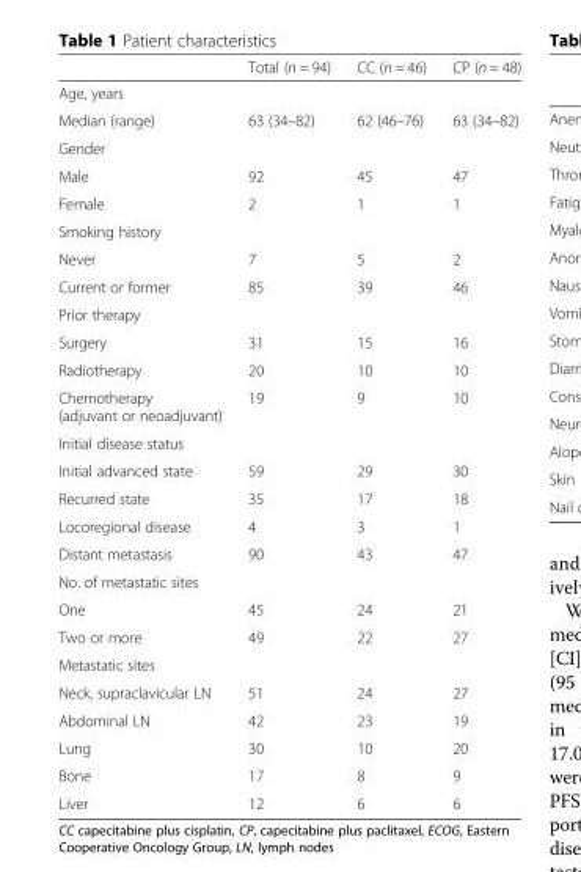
<table><thead><tr><td></td><td>Total (n = 94)</td><td>CC (n = 46)</td><td>CP (n = 48)</td></tr></thead><tbody><tr><td colspan="4">Age, years</td></tr><tr><td>Median (range)</td><td>63 (34–82)</td><td>62 (46–76)</td><td>63 (34–82)</td></tr><tr><td colspan="4">Gender</td></tr><tr><td>Male</td><td>92</td><td>45</td><td>47</td></tr><tr><td>Female</td><td>2</td><td>1</td><td>1</td></tr><tr><td colspan="4">Smoking history</td></tr><tr><td>Never</td><td>7</td><td>5</td><td>2</td></tr><tr><td>Current or former</td><td>85</td><td>39</td><td>46</td></tr><tr><td colspan="4">Prior therapy</td></tr><tr><td>Surgery</td><td>31</td><td>15</td><td>16</td></tr><tr><td>Radiotherapy</td><td>20</td><td>10</td><td>10</td></tr><tr><td>Chemotherapy (adjuvant or neoadjuvant)</td><td>19</td><td>9</td><td>10</td></tr><tr><td colspan="4">Initial disease status</td></tr><tr><td>Initial advanced state</td><td>59</td><td>29</td><td>30</td></tr><tr><td>Recurred state</td><td>35</td><td>17</td><td>18</td></tr><tr><td>Locoregional disease</td><td>4</td><td>3</td><td>1</td></tr><tr><td>Distant metastasis</td><td>90</td><td>43</td><td>47</td></tr><tr><td colspan="4">No. of metastatic sites</td></tr><tr><td>One</td><td>45</td><td>24</td><td>21</td></tr><tr><td>Two or more</td><td>49</td><td>22</td><td>27</td></tr><tr><td colspan="4">Metastatic sites</td></tr><tr><td>Neck, supraclavicular LN</td><td>51</td><td>24</td><td>27</td></tr><tr><td>Abdominal LN</td><td>42</td><td>23</td><td>19</td></tr><tr><td>Lung</td><td>30</td><td>10</td><td>20</td></tr><tr><td>Bone</td><td>17</td><td>8</td><td>9</td></tr><tr><td>Liver</td><td>12</td><td>6</td><td>6</td></tr></tbody></table>